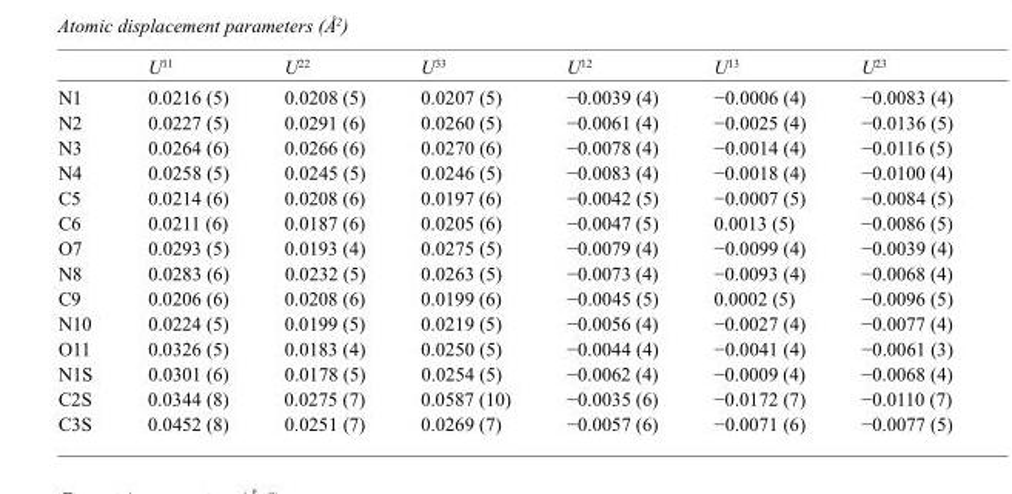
<table><thead><tr><td></td><td>U<sup>11</sup></td><td>U<sup>22</sup></td><td>U<sup>33</sup></td><td>U<sup>12</sup></td><td>U<sup>13</sup></td><td>U<sup>23</sup></td></tr></thead><tbody><tr><td>N1</td><td>0.0216 (5)</td><td>0.0208 (5)</td><td>0.0207 (5)</td><td>−0.0039 (4)</td><td>−0.0006 (4)</td><td>−0.0083 (4)</td></tr><tr><td>N2</td><td>0.0227 (5)</td><td>0.0291 (6)</td><td>0.0260 (5)</td><td>−0.0061 (4)</td><td>−0.0025 (4)</td><td>−0.0136 (5)</td></tr><tr><td>N3</td><td>0.0264 (6)</td><td>0.0266 (6)</td><td>0.0270 (6)</td><td>−0.0078 (4)</td><td>−0.0014 (4)</td><td>−0.0116 (5)</td></tr><tr><td>N4</td><td>0.0258 (5)</td><td>0.0245 (5)</td><td>0.0246 (5)</td><td>−0.0083 (4)</td><td>−0.0018 (4)</td><td>−0.0100 (4)</td></tr><tr><td>C5</td><td>0.0214 (6)</td><td>0.0208 (6)</td><td>0.0197 (6)</td><td>−0.0042 (5)</td><td>−0.0007 (5)</td><td>−0.0084 (5)</td></tr><tr><td>C6</td><td>0.0211 (6)</td><td>0.0187 (6)</td><td>0.0205 (6)</td><td>−0.0047 (5)</td><td>0.0013 (5)</td><td>−0.0086 (5)</td></tr><tr><td>O7</td><td>0.0293 (5)</td><td>0.0193 (4)</td><td>0.0275 (5)</td><td>−0.0079 (4)</td><td>−0.0099 (4)</td><td>−0.0039 (4)</td></tr><tr><td>N8</td><td>0.0283 (6)</td><td>0.0232 (5)</td><td>0.0263 (5)</td><td>−0.0073 (4)</td><td>−0.0093 (4)</td><td>−0.0068 (4)</td></tr><tr><td>C9</td><td>0.0206 (6)</td><td>0.0208 (6)</td><td>0.0199 (6)</td><td>−0.0045 (5)</td><td>0.0002 (5)</td><td>−0.0096 (5)</td></tr><tr><td>N10</td><td>0.0224 (5)</td><td>0.0199 (5)</td><td>0.0219 (5)</td><td>−0.0056 (4)</td><td>−0.0027 (4)</td><td>−0.0077 (4)</td></tr><tr><td>O11</td><td>0.0326 (5)</td><td>0.0183 (4)</td><td>0.0250 (5)</td><td>−0.0044 (4)</td><td>−0.0041 (4)</td><td>−0.0061 (3)</td></tr><tr><td>N1S</td><td>0.0301 (6)</td><td>0.0178 (5)</td><td>0.0254 (5)</td><td>−0.0062 (4)</td><td>−0.0009 (4)</td><td>−0.0068 (4)</td></tr><tr><td>C2S</td><td>0.0344 (8)</td><td>0.0275 (7)</td><td>0.0587 (10)</td><td>−0.0035 (6)</td><td>−0.0172 (7)</td><td>−0.0110 (7)</td></tr><tr><td>C3S</td><td>0.0452 (8)</td><td>0.0251 (7)</td><td>0.0269 (7)</td><td>−0.0057 (6)</td><td>−0.0071 (6)</td><td>−0.0077 (5)</td></tr></tbody></table>